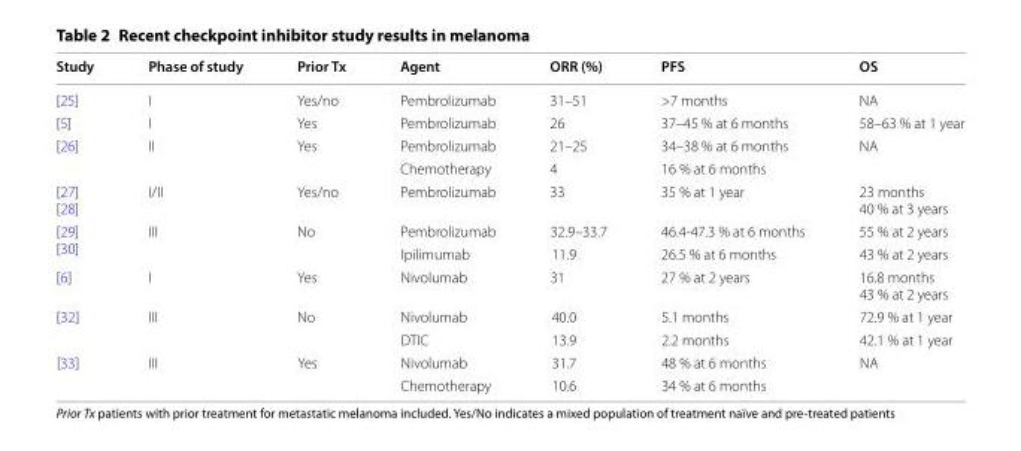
<table><thead><tr><td>Study</td><td>Phase of study</td><td>Prior Tx</td><td>Agent</td><td>ORR (%)</td><td>PFS</td><td>OS</td></tr></thead><tbody><tr><td>[25]</td><td>I</td><td>Yes/no</td><td>Pembrolizumab</td><td>31–51</td><td>&gt;7 months</td><td>NA</td></tr><tr><td>[5]</td><td>I</td><td>Yes</td><td>Pembrolizumab</td><td>26</td><td>37–45 % at 6 months</td><td>58–63 % at 1 year</td></tr><tr><td rowspan="2">[26]</td><td rowspan="2">II</td><td rowspan="2">Yes</td><td>Pembrolizumab</td><td>21–25</td><td>34–38 % at 6 months</td><td rowspan="2">NA</td></tr><tr><td>Chemotherapy</td><td>4</td><td>16 % at 6 months</td></tr><tr><td>[27] [28]</td><td>I/II</td><td>Yes/no</td><td>Pembrolizumab</td><td>33</td><td>35 % at 1 year</td><td>23 months 40 % at 3 years</td></tr><tr><td rowspan="2">[29] [30]</td><td rowspan="2">III</td><td rowspan="2">No</td><td>Pembrolizumab</td><td>32.9–33.7</td><td>46.4-47.3 % at 6 months</td><td>55 % at 2 years</td></tr><tr><td>Ipilimumab</td><td>11.9</td><td>26.5 % at 6 months</td><td>43 % at 2 years</td></tr><tr><td>[6]</td><td>I</td><td>Yes</td><td>Nivolumab</td><td>31</td><td>27 % at 2 years</td><td>16.8 months 43 % at 2 years</td></tr><tr><td rowspan="2">[32]</td><td rowspan="2">III</td><td rowspan="2">No</td><td>Nivolumab</td><td>40.0</td><td>5.1 months</td><td>72.9 % at 1 year</td></tr><tr><td>DTIC</td><td>13.9</td><td>2.2 months</td><td>42.1 % at 1 year</td></tr><tr><td rowspan="2">[33]</td><td rowspan="2">III</td><td rowspan="2">Yes</td><td>Nivolumab</td><td>31.7</td><td>48 % at 6 months</td><td rowspan="2">NA</td></tr><tr><td>Chemotherapy</td><td>10.6</td><td>34 % at 6 months</td></tr></tbody></table>